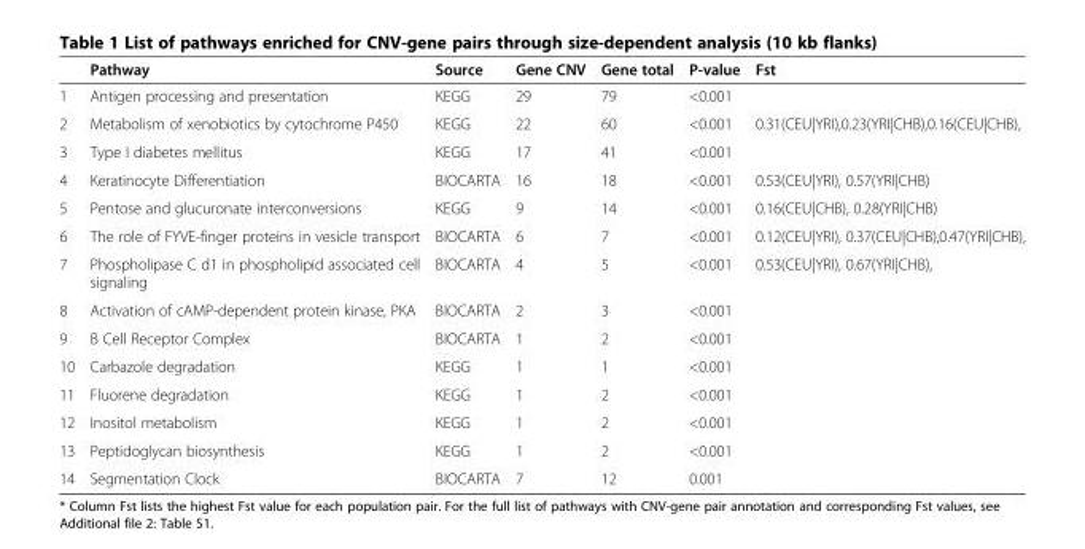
<table><thead><tr><td></td><td>Pathway</td><td>Source</td><td>Gene CNV</td><td>Gene total</td><td>P-value</td><td>Fst</td></tr></thead><tbody><tr><td>1</td><td>Antigen processing and presentation</td><td>KEGG</td><td>29</td><td>79</td><td>&lt;0.001</td><td></td></tr><tr><td>2</td><td>Metabolism of xenobiotics by cytochrome P450</td><td>KEGG</td><td>22</td><td>60</td><td>&lt;0.001</td><td>0.31(CEU|YRI),0.23(YRI|CHB),0.16(CEU|CHB),</td></tr><tr><td>3</td><td>Type I diabetes mellitus</td><td>KEGG</td><td>17</td><td>41</td><td>&lt;0.001</td><td></td></tr><tr><td>4</td><td>Keratinocyte Differentiation</td><td>BIOCARTA</td><td>16</td><td>18</td><td>&lt;0.001</td><td>0.53(CEU|YRI), 0.57(YRI|CHB)</td></tr><tr><td>5</td><td>Pentose and glucuronate interconversions</td><td>KEGG</td><td>9</td><td>14</td><td>&lt;0.001</td><td>0.16(CEU|CHB), 0.28(YRI|CHB)</td></tr><tr><td>6</td><td>The role of FYVE-finger proteins in vesicle transport</td><td>BIOCARTA</td><td>6</td><td>7</td><td>&lt;0.001</td><td>0.12(CEU|YRI), 0.37(CEU|CHB),0.47(YRI|CHB),</td></tr><tr><td>7</td><td>Phospholipase C d1 in phospholipid associated cell signaling</td><td>BIOCARTA</td><td>4</td><td>5</td><td>&lt;0.001</td><td>0.53(CEU|YRI), 0.67(YRI|CHB),</td></tr><tr><td>8</td><td>Activation of cAMP-dependent protein kinase, PKA</td><td>BIOCARTA</td><td>2</td><td>3</td><td>&lt;0.001</td><td></td></tr><tr><td>9</td><td>B Cell Receptor Complex</td><td>BIOCARTA</td><td>1</td><td>2</td><td>&lt;0.001</td><td></td></tr><tr><td>10</td><td>Carbazole degradation</td><td>KEGG</td><td>1</td><td>1</td><td>&lt;0.001</td><td></td></tr><tr><td>11</td><td>Fluorene degradation</td><td>KEGG</td><td>1</td><td>2</td><td>&lt;0.001</td><td></td></tr><tr><td>12</td><td>Inositol metabolism</td><td>KEGG</td><td>1</td><td>2</td><td>&lt;0.001</td><td></td></tr><tr><td>13</td><td>Peptidoglycan biosynthesis</td><td>KEGG</td><td>1</td><td>2</td><td>&lt;0.001</td><td></td></tr><tr><td>14</td><td>Segmentation Clock</td><td>BIOCARTA</td><td>7</td><td>12</td><td>0.001</td><td></td></tr></tbody></table>